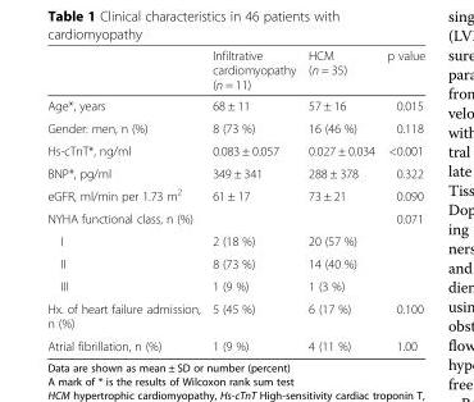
<table><thead><tr><td></td><td>Infiltrative cardiomyopathy (n = 11)</td><td>HCM (n = 35)</td><td>p value</td></tr></thead><tbody><tr><td>Age*, years</td><td>68 ± 11</td><td>57 ± 16</td><td>0.015</td></tr><tr><td>Gender: men, n (%)</td><td>8 (73 %)</td><td>16 (46 %)</td><td>0.118</td></tr><tr><td>Hs-cTnT*, ng/ml</td><td>0.083 ± 0.057</td><td>0.027 ± 0.034</td><td>&lt;0.001</td></tr><tr><td>BNP*, pg/ml</td><td>349 ± 341</td><td>288 ± 378</td><td>0.322</td></tr><tr><td>eGFR, ml/min per 1.73 m<sup>2</sup></td><td>61 ± 17</td><td>73 ± 21</td><td>0.090</td></tr><tr><td>NYHA functional class, n (%)</td><td></td><td></td><td>0.071</td></tr><tr><td>I</td><td>2 (18 %)</td><td>20 (57 %)</td><td></td></tr><tr><td>II</td><td>8 (73 %)</td><td>14 (40 %)</td><td></td></tr><tr><td>III</td><td>1 (9 %)</td><td>1 (3 %)</td><td></td></tr><tr><td>Hx. of heart failure admission, n (%)</td><td>5 (45 %)</td><td>6 (17 %)</td><td>0.100</td></tr><tr><td>Atrial fibrillation, n (%)</td><td>1 (9 %)</td><td>4 (11 %)</td><td>1.00</td></tr></tbody></table>